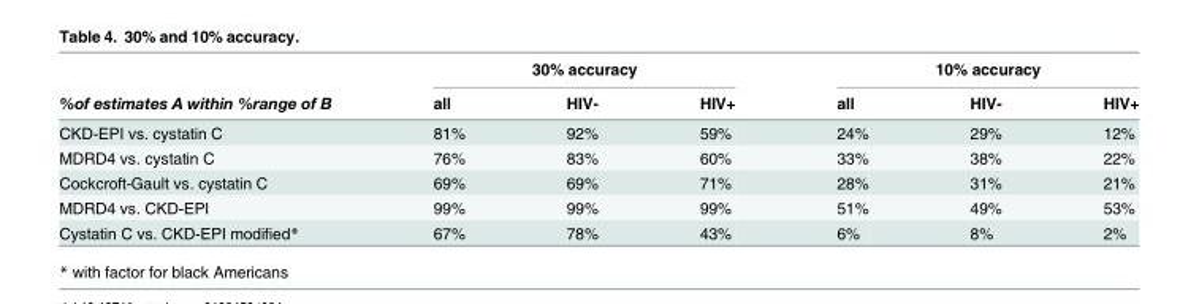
<table><thead><tr><td rowspan="2">%of estimates A within %range of B</td><td colspan="3">30% accuracy</td><td colspan="3">10% accuracy</td></tr><tr><td>all</td><td>HIV-</td><td>HIV+</td><td>all</td><td>HIV-</td><td>HIV+</td></tr></thead><tbody><tr><td>CKD-EPI vs. cystatin C</td><td>81%</td><td>92%</td><td>59%</td><td>24%</td><td>29%</td><td>12%</td></tr><tr><td>MDRD4 vs. cystatin C</td><td>76%</td><td>83%</td><td>60%</td><td>33%</td><td>38%</td><td>22%</td></tr><tr><td>Cockcroft-Gault vs. cystatin C</td><td>69%</td><td>69%</td><td>71%</td><td>28%</td><td>31%</td><td>21%</td></tr><tr><td>MDRD4 vs. CKD-EPI</td><td>99%</td><td>99%</td><td>99%</td><td>51%</td><td>49%</td><td>53%</td></tr><tr><td>Cystatin C vs. CKD-EPI modified*</td><td>67%</td><td>78%</td><td>43%</td><td>6%</td><td>8%</td><td>2%</td></tr></tbody></table>